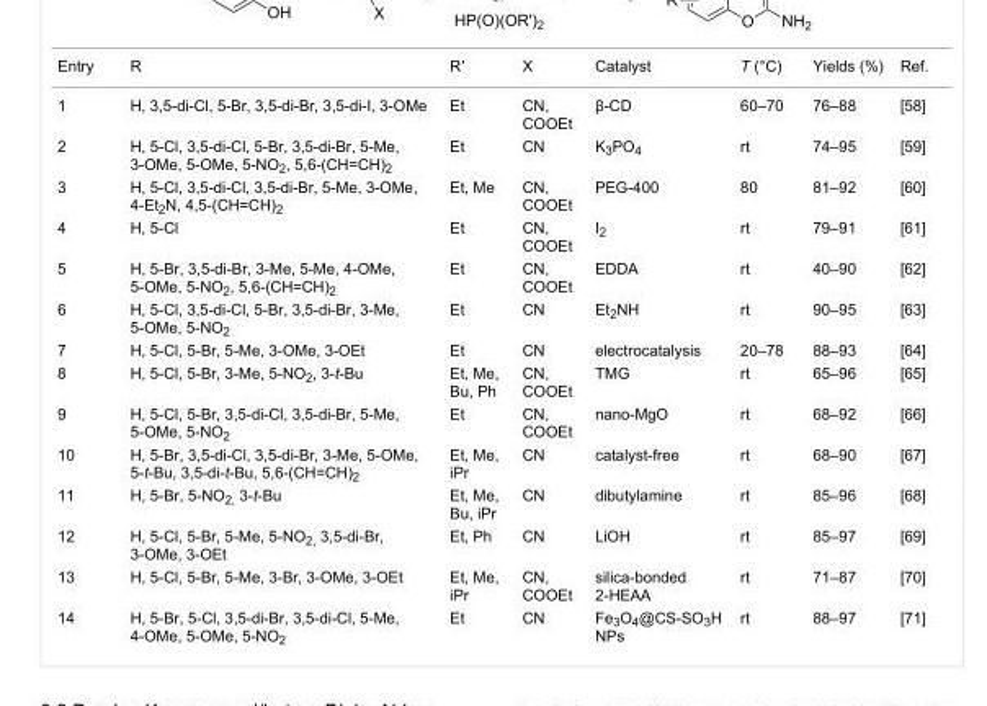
<table><tbody><tr><td>Entry</td><td>R</td><td>R′</td><td>X</td><td>Catalyst</td><td>T (°C)</td><td>Yields (%)</td><td>Ref.</td></tr><tr><td>1</td><td>H, 3,5-di-Cl, 5-Br, 3,5-di-Br, 3,5-di-I, 3-OMe</td><td>Et</td><td>CN, COOEt</td><td>β-CD</td><td>60–70</td><td>76–88</td><td>[58]</td></tr><tr><td>2</td><td>H, 5-Cl, 3,5-di-Cl, 5-Br, 3,5-di-Br, 5-Me, 3-OMe, 5-OMe, 5-NO<sub>2</sub>, 5,6-(CH=CH)<sub>2</sub></td><td>Et</td><td>CN</td><td>K<sub>3</sub>PO<sub>4</sub></td><td>rt</td><td>74–95</td><td>[59]</td></tr><tr><td>3</td><td>H, 5-Cl, 3,5-di-Cl, 3,5-di-Br, 5-Me, 3-OMe, 4-Et<sub>2</sub>N, 4,5-(CH=CH)<sub>2</sub></td><td>Et, Me</td><td>CN, COOEt</td><td>PEG-400</td><td>80</td><td>81–92</td><td>[60]</td></tr><tr><td>4</td><td>H, 5-Cl</td><td>Et</td><td>CN, COOEt</td><td>I<sub>2</sub></td><td>rt</td><td>79–91</td><td>[61]</td></tr><tr><td>5</td><td>H, 5-Br, 3,5-di-Br, 3-Me, 5-Me, 4-OMe, 5-OMe, 5-NO<sub>2</sub>, 5,6-(CH=CH)<sub>2</sub></td><td>Et</td><td>CN, COOEt</td><td>EDDA</td><td>rt</td><td>40–90</td><td>[62]</td></tr><tr><td>6</td><td>H, 5-Cl, 3,5-di-Cl, 5-Br, 3,5-di-Br, 3-Me, 5-OMe, 5-NO<sub>2</sub></td><td>Et</td><td>CN</td><td>Et<sub>2</sub>NH</td><td>rt</td><td>90–95</td><td>[63]</td></tr><tr><td>7</td><td>H, 5-Cl, 5-Br, 5-Me, 3-OMe, 3-OEt</td><td>Et</td><td>CN</td><td>electrocatalysis</td><td>20–78</td><td>88–93</td><td>[64]</td></tr><tr><td>8</td><td>H, 5-Cl, 5-Br, 3-Me, 5-NO<sub>2</sub>, 3-t-Bu</td><td>Et, Me, Bu, Ph</td><td>CN, COOEt</td><td>TMG</td><td>rt</td><td>65–96</td><td>[65]</td></tr><tr><td>9</td><td>H, 5-Cl, 5-Br, 3,5-di-Cl, 3,5-di-Br, 5-Me, 5-OMe, 5-NO<sub>2</sub></td><td>Et</td><td>CN, COOEt</td><td>nano-MgO</td><td>rt</td><td>68–92</td><td>[66]</td></tr><tr><td>10</td><td>H, 5-Br, 3,5-di-Cl, 3,5-di-Br, 3-Me, 5-OMe, 5-t-Bu, 3,5-di-t-Bu, 5,6-(CH=CH)<sub>2</sub></td><td>Et, Me, iPr</td><td>CN</td><td>catalyst-free</td><td>rt</td><td>68–90</td><td>[67]</td></tr><tr><td>11</td><td>H, 5-Br, 5-NO<sub>2,</sub> 3-t-Bu</td><td>Et, Me, Bu, iPr</td><td>CN</td><td>dibutylamine</td><td>rt</td><td>85–96</td><td>[68]</td></tr><tr><td>12</td><td>H, 5-Cl, 5-Br, 5-Me, 5-NO<sub>2,</sub> 3,5-di-Br, 3-OMe, 3-OEt</td><td>Et, Ph</td><td>CN</td><td>LiOH</td><td>rt</td><td>85–97</td><td>[69]</td></tr><tr><td>13</td><td>H, 5-Cl, 5-Br, 5-Me, 3-Br, 3-OMe, 3-OEt</td><td>Et, Me, iPr</td><td>CN, COOEt</td><td>silica-bonded 2-HEAA</td><td>rt</td><td>71–87</td><td>[70]</td></tr><tr><td>14</td><td>H, 5-Br, 5-Cl, 3,5-di-Br, 3,5-di-Cl, 5-Me, 4-OMe, 5-OMe, 5-NO<sub>2</sub></td><td>Et</td><td>CN</td><td>Fe<sub>3</sub>O<sub>4</sub>@CS-SO<sub>3</sub>H NPs</td><td>rt</td><td>88–97</td><td>[71]</td></tr></tbody></table>